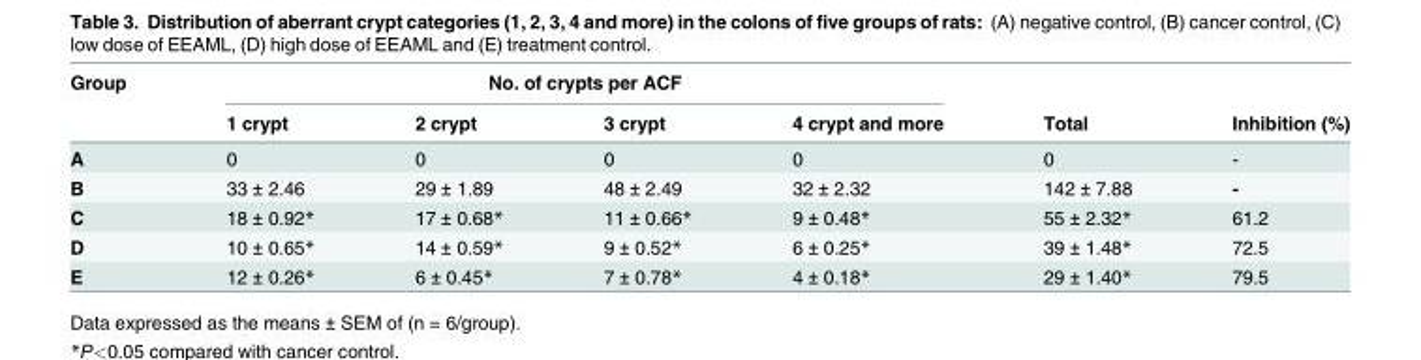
<table><thead><tr><td rowspan="2">Group</td><td colspan="4">No. of crypts per ACF</td><td rowspan="2">Total</td><td rowspan="2">Inhibition (%)</td></tr><tr><td>1 crypt</td><td>2 crypt</td><td>3 crypt</td><td>4 crypt and more</td></tr></thead><tbody><tr><td>A</td><td>0</td><td>0</td><td>0</td><td>0</td><td>0</td><td>-</td></tr><tr><td>B</td><td>33 ± 2.46</td><td>29 ± 1.89</td><td>48 ± 2.49</td><td>32 ± 2.32</td><td>142 ± 7.88</td><td>-</td></tr><tr><td>C</td><td>18 ± 0.92*</td><td>17 ± 0.68*</td><td>11 ± 0.66*</td><td>9 ± 0.48*</td><td>55 ± 2.32*</td><td>61.2</td></tr><tr><td>D</td><td>10 ± 0.65*</td><td>14 ± 0.59*</td><td>9 ± 0.52*</td><td>6 ± 0.25*</td><td>39 ± 1.48*</td><td>72.5</td></tr><tr><td>E</td><td>12 ± 0.26*</td><td>6 ± 0.45*</td><td>7 ± 0.78*</td><td>4 ± 0.18*</td><td>29 ± 1.40*</td><td>79.5</td></tr></tbody></table>